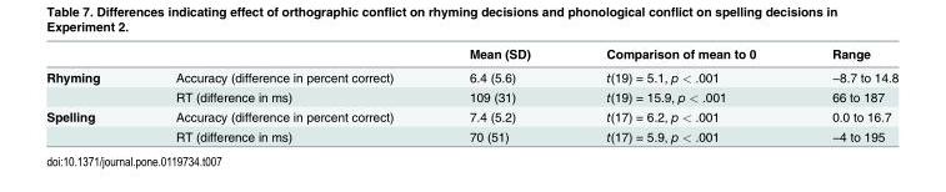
<table><thead><tr><td></td><td></td><td>Mean (SD)</td><td>Comparison of mean to 0</td><td>Range</td></tr></thead><tbody><tr><td rowspan="2">Rhyming</td><td>Accuracy (difference in percent correct)</td><td>6.4 (5.6)</td><td>t(19) = 5.1, p &lt; .001</td><td>−8.7 to 14.8</td></tr><tr><td>RT (difference in ms)</td><td>109 (31)</td><td>t(19) = 15.9, p &lt; .001</td><td>66 to 187</td></tr><tr><td rowspan="2">Spelling</td><td>Accuracy (difference in percent correct)</td><td>7.4 (5.2)</td><td>t(17) = 6.2, p &lt; .001</td><td>0.0 to 16.7</td></tr><tr><td>RT (difference in ms)</td><td>70 (51)</td><td>t(17) = 5.9, p &lt; .001</td><td>−4 to 195</td></tr></tbody></table>